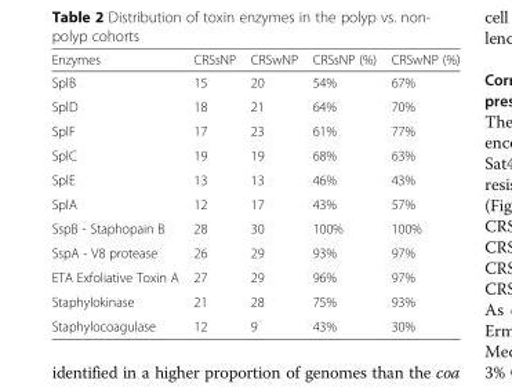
<table><thead><tr><td>Enzymes</td><td>CRSsNP</td><td>CRSwNP</td><td>CRSsNP (%)</td><td>CRSwNP (%)</td></tr></thead><tbody><tr><td>SplB</td><td>15</td><td>20</td><td>54%</td><td>67%</td></tr><tr><td>SplD</td><td>18</td><td>21</td><td>64%</td><td>70%</td></tr><tr><td>SplF</td><td>17</td><td>23</td><td>61%</td><td>77%</td></tr><tr><td>SplC</td><td>19</td><td>19</td><td>68%</td><td>63%</td></tr><tr><td>SplE</td><td>13</td><td>13</td><td>46%</td><td>43%</td></tr><tr><td>SplA</td><td>12</td><td>17</td><td>43%</td><td>57%</td></tr><tr><td>SspB - Staphopain B</td><td>28</td><td>30</td><td>100%</td><td>100%</td></tr><tr><td>SspA - V8 protease</td><td>26</td><td>29</td><td>93%</td><td>97%</td></tr><tr><td>ETA Exfoliative Toxin A</td><td>27</td><td>29</td><td>96%</td><td>97%</td></tr><tr><td>Staphylokinase</td><td>21</td><td>28</td><td>75%</td><td>93%</td></tr><tr><td>Staphylocoagulase</td><td>12</td><td>9</td><td>43%</td><td>30%</td></tr></tbody></table>